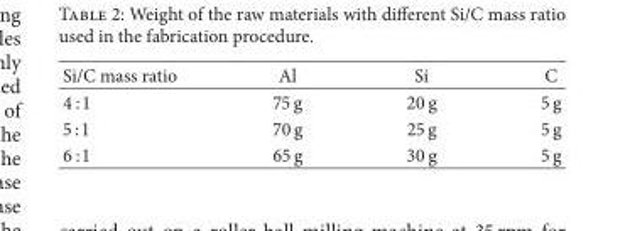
<table><thead><tr><td>Si/C mass ratio</td><td>Al</td><td>Si</td><td>C</td></tr></thead><tbody><tr><td>4 : 1</td><td>75 g</td><td>20 g</td><td>5 g</td></tr><tr><td>5 : 1</td><td>70 g</td><td>25 g</td><td>5 g</td></tr><tr><td>6 : 1</td><td>65 g</td><td>30 g</td><td>5 g</td></tr></tbody></table>